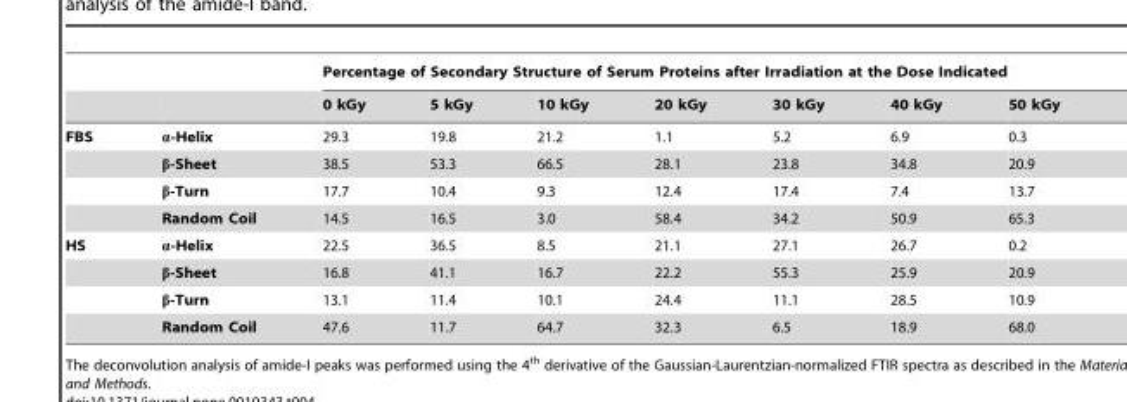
<table><thead><tr><td rowspan="2"></td><td rowspan="2"></td><td colspan="7">Percentage of Secondary Structure of Serum Proteins after Irradiation at the Dose Indicated</td></tr><tr><td>0 kGy</td><td>5 kGy</td><td>10 kGy</td><td>20 kGy</td><td>30 kGy</td><td>40 kGy</td><td>50 kGy</td></tr></thead><tbody><tr><td rowspan="4">FBS</td><td>α-Helix</td><td>29.3</td><td>19.8</td><td>21.2</td><td>1.1</td><td>5.2</td><td>6.9</td><td>0.3</td></tr><tr><td>β-Sheet</td><td>38.5</td><td>53.3</td><td>66.5</td><td>28.1</td><td>23.8</td><td>34.8</td><td>20.9</td></tr><tr><td>β-Turn</td><td>17.7</td><td>10.4</td><td>9.3</td><td>12.4</td><td>17.4</td><td>7.4</td><td>13.7</td></tr><tr><td>Random Coil</td><td>14.5</td><td>16.5</td><td>3.0</td><td>58.4</td><td>34.2</td><td>50.9</td><td>65.3</td></tr><tr><td rowspan="4">HS</td><td>α-Helix</td><td>22.5</td><td>36.5</td><td>8.5</td><td>21.1</td><td>27.1</td><td>26.7</td><td>0.2</td></tr><tr><td>β-Sheet</td><td>16.8</td><td>41.1</td><td>16.7</td><td>22.2</td><td>55.3</td><td>25.9</td><td>20.9</td></tr><tr><td>β-Turn</td><td>13.1</td><td>11.4</td><td>10.1</td><td>24.4</td><td>11.1</td><td>28.5</td><td>10.9</td></tr><tr><td>Random Coil</td><td>47.6</td><td>11.7</td><td>64.7</td><td>32.3</td><td>6.5</td><td>18.9</td><td>68.0</td></tr></tbody></table>